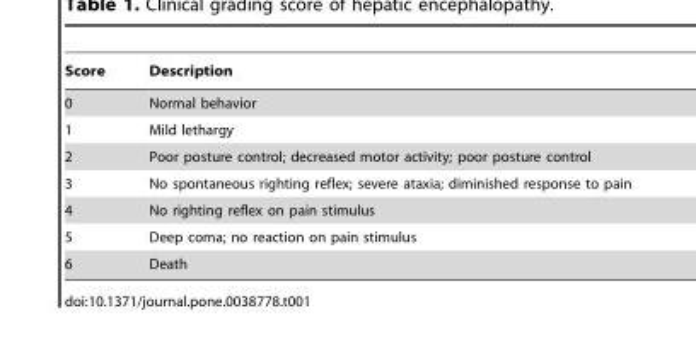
<table><thead><tr><td>Score</td><td>Description</td></tr></thead><tbody><tr><td>0</td><td>Normal behavior</td></tr><tr><td>1</td><td>Mild lethargy</td></tr><tr><td>2</td><td>Poor posture control; decreased motor activity; poor posture control</td></tr><tr><td>3</td><td>No spontaneous righting reflex; severe ataxia; diminished response to pain</td></tr><tr><td>4</td><td>No righting reflex on pain stimulus</td></tr><tr><td>5</td><td>Deep coma; no reaction on pain stimulus</td></tr><tr><td>6</td><td>Death</td></tr></tbody></table>